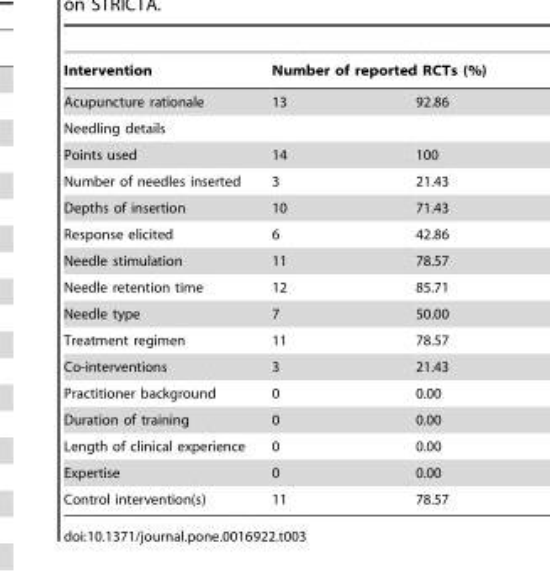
<table><thead><tr><td rowspan="2">Intervention Acupuncture rationale</td><td colspan="2">Number of reported RCTs (%)</td></tr><tr><td>13</td><td>92.86</td></tr></thead><tbody><tr><td colspan="3">Needling details</td></tr><tr><td>Points used</td><td>14</td><td>100</td></tr><tr><td>Number of needles inserted</td><td>3</td><td>21.43</td></tr><tr><td>Depths of insertion</td><td>10</td><td>71.43</td></tr><tr><td>Response elicited</td><td>6</td><td>42.86</td></tr><tr><td>Needle stimulation</td><td>11</td><td>78.57</td></tr><tr><td>Needle retention time</td><td>12</td><td>85.71</td></tr><tr><td>Needle type</td><td>7</td><td>50.00</td></tr><tr><td>Treatment regimen</td><td>11</td><td>78.57</td></tr><tr><td>Co-interventions</td><td>3</td><td>21.43</td></tr><tr><td>Practitioner background</td><td>0</td><td>0.00</td></tr><tr><td>Duration of training</td><td>0</td><td>0.00</td></tr><tr><td>Length of clinical experience</td><td>0</td><td>0.00</td></tr><tr><td>Expertise</td><td>0</td><td>0.00</td></tr><tr><td>Control intervention(s)</td><td>11</td><td>78.57</td></tr></tbody></table>